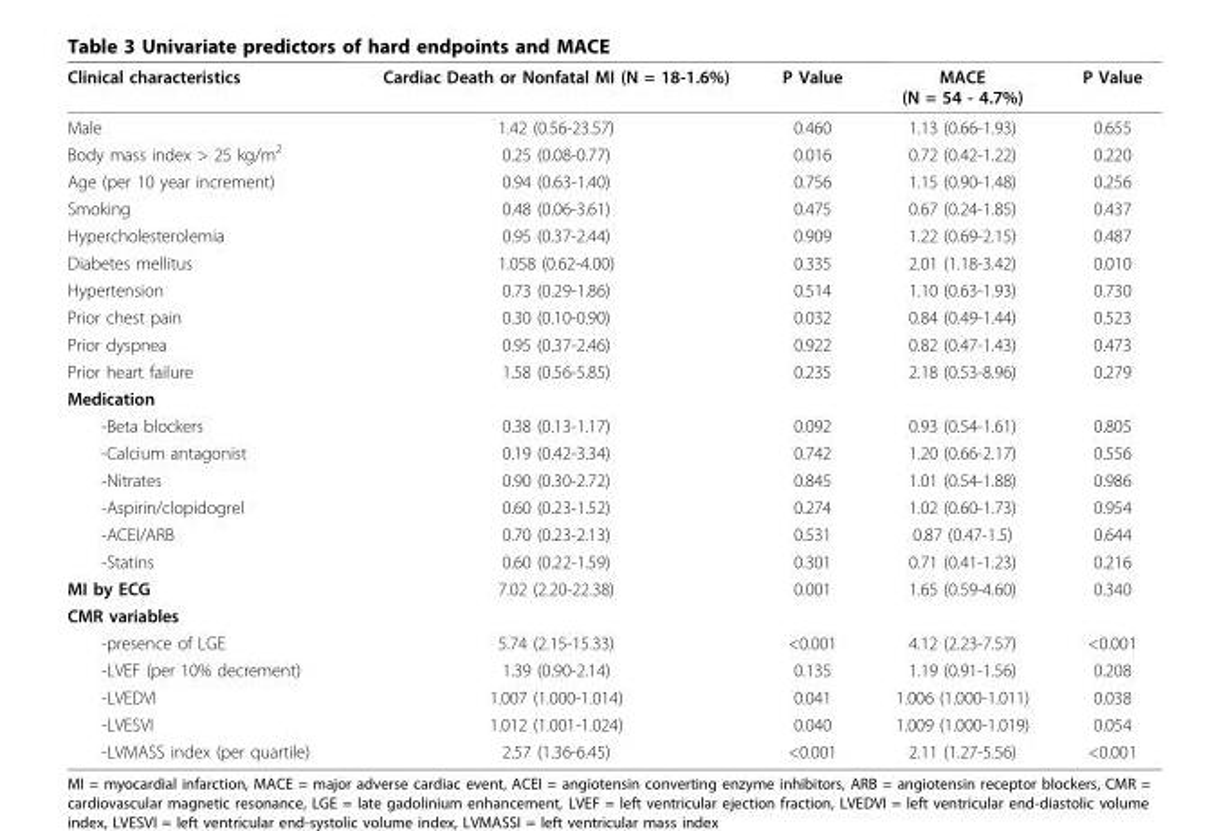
<table><thead><tr><td>Clinical characteristics</td><td>Cardiac Death or Nonfatal MI (N = 18-1.6%)</td><td>P Value</td><td>MACE (N = 54 - 4.7%)</td><td>P Value</td></tr></thead><tbody><tr><td>Male</td><td>1.42 (0.56-23.57)</td><td>0.460</td><td>1.13 (0.66-1.93)</td><td>0.655</td></tr><tr><td>Body mass index &gt; 25 kg/m<sup>2</sup></td><td>0.25 (0.08-0.77)</td><td>0.016</td><td>0.72 (0.42-1.22)</td><td>0.220</td></tr><tr><td>Age (per 10 year increment)</td><td>0.94 (0.63-1.40)</td><td>0.756</td><td>1.15 (0.90-1.48)</td><td>0.256</td></tr><tr><td>Smoking</td><td>0.48 (0.06-3.61)</td><td>0.475</td><td>0.67 (0.24-1.85)</td><td>0.437</td></tr><tr><td>Hypercholesterolemia</td><td>0.95 (0.37-2.44)</td><td>0.909</td><td>1.22 (0.69-2.15)</td><td>0.487</td></tr><tr><td>Diabetes mellitus</td><td>1.058 (0.62-4.00)</td><td>0.335</td><td>2.01 (1.18-3.42)</td><td>0.010</td></tr><tr><td>Hypertension</td><td>0.73 (0.29-1.86)</td><td>0.514</td><td>1.10 (0.63-1.93)</td><td>0.730</td></tr><tr><td>Prior chest pain</td><td>0.30 (0.10-0.90)</td><td>0.032</td><td>0.84 (0.49-1.44)</td><td>0.523</td></tr><tr><td>Prior dyspnea</td><td>0.95 (0.37-2.46)</td><td>0.922</td><td>0.82 (0.47-1.43)</td><td>0.473</td></tr><tr><td>Prior heart failure</td><td>1.58 (0.56-5.85)</td><td>0.235</td><td>2.18 (0.53-8.96)</td><td>0.279</td></tr><tr><td colspan="5">Medication</td></tr><tr><td>-Beta blockers</td><td>0.38 (0.13-1.17)</td><td>0.092</td><td>0.93 (0.54-1.61)</td><td>0.805</td></tr><tr><td>-Calcium antagonist</td><td>0.19 (0.42-3.34)</td><td>0.742</td><td>1.20 (0.66-2.17)</td><td>0.556</td></tr><tr><td>-Nitrates</td><td>0.90 (0.30-2.72)</td><td>0.845</td><td>1.01 (0.54-1.88)</td><td>0.986</td></tr><tr><td>-Aspirin/clopidogrel</td><td>0.60 (0.23-1.52)</td><td>0.274</td><td>1.02 (0.60-1.73)</td><td>0.954</td></tr><tr><td>-ACEI/ARB</td><td>0.70 (0.23-2.13)</td><td>0.531</td><td>0.87 (0.47-1.5)</td><td>0.644</td></tr><tr><td>-Statins</td><td>0.60 (0.22-1.59)</td><td>0.301</td><td>0.71 (0.41-1.23)</td><td>0.216</td></tr><tr><td>MI by ECG</td><td>7.02 (2.20-22.38)</td><td>0.001</td><td>1.65 (0.59-4.60)</td><td>0.340</td></tr><tr><td colspan="5">CMR variables</td></tr><tr><td>-presence of LGE</td><td>5.74 (2.15-15.33)</td><td>&lt;0.001</td><td>4.12 (2.23-7.57)</td><td>&lt;0.001</td></tr><tr><td>-LVEF (per 10% decrement)</td><td>1.39 (0.90-2.14)</td><td>0.135</td><td>1.19 (0.91-1.56)</td><td>0.208</td></tr><tr><td>-LVEDVI</td><td>1.007 (1.000-1.014)</td><td>0.041</td><td>1.006 (1.000-1.011)</td><td>0.038</td></tr><tr><td>-LVESVI</td><td>1.012 (1.001-1.024)</td><td>0.040</td><td>1.009 (1.000-1.019)</td><td>0.054</td></tr><tr><td>-LVMASS index (per quartile)</td><td>2.57 (1.36-6.45)</td><td>&lt;0.001</td><td>2.11 (1.27-5.56)</td><td>&lt;0.001</td></tr></tbody></table>